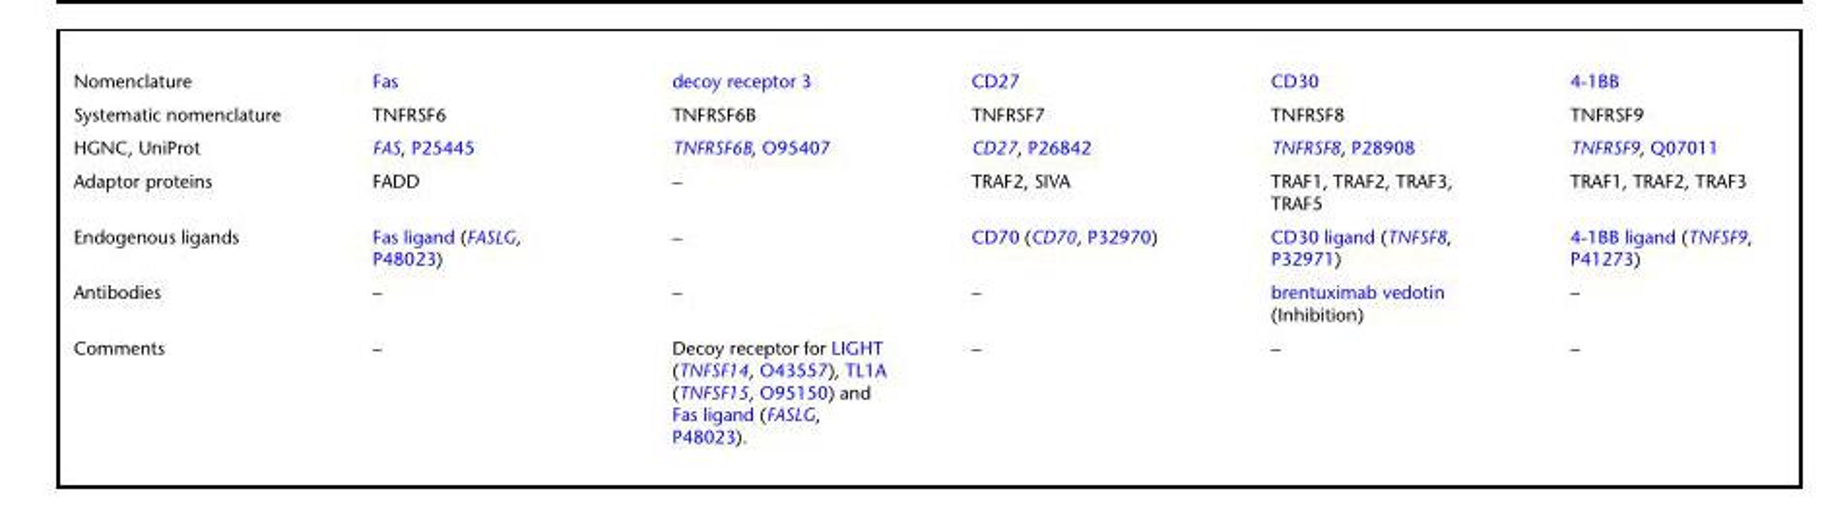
<table><tbody><tr><td>Nomenclature</td><td>Fas</td><td>decoy receptor 3</td><td>CD27</td><td>CD30</td><td>4-1BB</td></tr><tr><td>Systematic nomenclature</td><td>TNFRSF6</td><td>TNFRSF6B</td><td>TNFRSF7</td><td>TNFRSF8</td><td>TNFRSF9</td></tr><tr><td>HGNC, UniProt</td><td>FAS, P25445</td><td>TNFRSF6B, O95407</td><td>CD27, P26842</td><td>TNFRSF8, P28908</td><td>TNFRSF9, Q07011</td></tr><tr><td>Adaptor proteins</td><td>FADD</td><td>–</td><td>TRAF2, SIVA</td><td>TRAF1, TRAF2, TRAF3, TRAF5</td><td>TRAF1, TRAF2, TRAF3</td></tr><tr><td>Endogenous ligands</td><td>Fas ligand (FASLG, P48023)</td><td>–</td><td>CD70 (CD70, P32970)</td><td>CD30 ligand (TNFSF8, P32971)</td><td>4-1BB ligand (TNFSF9, P41273)</td></tr><tr><td>Antibodies</td><td>–</td><td>–</td><td>–</td><td>brentuximab vedotin (Inhibition)</td><td>–</td></tr><tr><td>Comments</td><td>–</td><td>Decoy receptor for LIGHT (TNFSF14, O43557), TL1A (TNFSF15, O95150) and Fas ligand (FASLG, P48023).</td><td>–</td><td>–</td><td>–</td></tr></tbody></table>